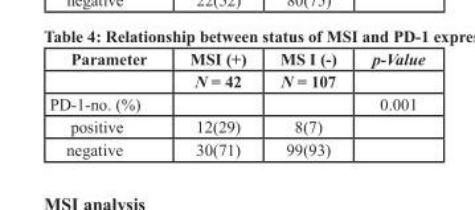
<table><thead><tr><td rowspan="2">Parameter</td><td rowspan="2">MSI (+) N = 42</td><td rowspan="2">MS I (-) N = 107</td><td rowspan="2">p-Value</td></tr><tr></tr></thead><tbody><tr><td>PD-1-no. (%)</td><td></td><td></td><td>0.001</td></tr><tr><td>positive</td><td>12(29)</td><td>8(7)</td><td></td></tr><tr><td>negative</td><td>30(71)</td><td>99(93)</td><td></td></tr></tbody></table>